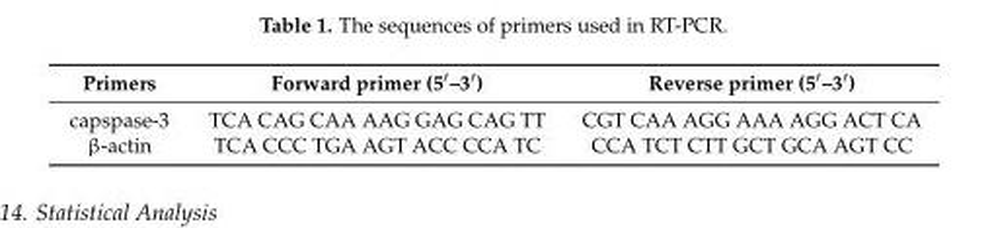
<table><thead><tr><td>Primers</td><td>Forward primer (5′–3′)</td><td>Reverse primer (5′–3′)</td></tr></thead><tbody><tr><td>capspase-3</td><td>TCA CAG CAA AAG GAG CAG TT</td><td>CGT CAA AGG AAA AGG ACT CA</td></tr><tr><td>β-actin</td><td>TCA CCC TGA AGT ACC CCA TC</td><td>CCA TCT CTT GCT GCA AGT CC</td></tr></tbody></table>